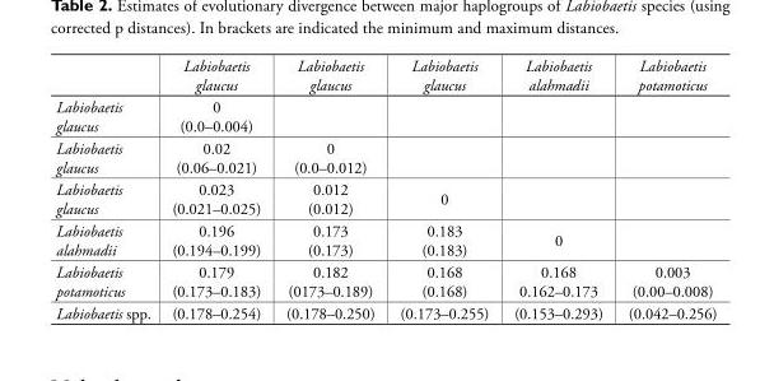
<table><thead><tr><td></td><td>Labiobaetis glaucus</td><td>Labiobaetis glaucus</td><td>Labiobaetis glaucus</td><td>Labiobaetis alahmadii</td><td>Labiobaetis potamoticus</td></tr></thead><tbody><tr><td>Labiobaetis glaucus</td><td>0 (0.0–0.004)</td><td></td><td></td><td></td><td></td></tr><tr><td>Labiobaetis glaucus</td><td>0.02 (0.06–0.021)</td><td>0 (0.0–0.012)</td><td></td><td></td><td></td></tr><tr><td>Labiobaetis glaucus</td><td>0.023 (0.021–0.025)</td><td>0.012 (0.012)</td><td>0</td><td></td><td></td></tr><tr><td>Labiobaetis alahmadii</td><td>0.196 (0.194–0.199)</td><td>0.173 (0.173)</td><td>0.183 (0.183)</td><td>0</td><td></td></tr><tr><td>Labiobaetis potamoticus</td><td>0.179 (0.173–0.183)</td><td>0.182 (0173–0.189)</td><td>0.168 (0.168)</td><td>0.168 0.162–0.173</td><td>0.003 (0.00–0.008)</td></tr><tr><td>Labiobaetis spp.</td><td>(0.178–0.254)</td><td>(0.178–0.250)</td><td>(0.173–0.255)</td><td>(0.153–0.293)</td><td>(0.042–0.256)</td></tr></tbody></table>